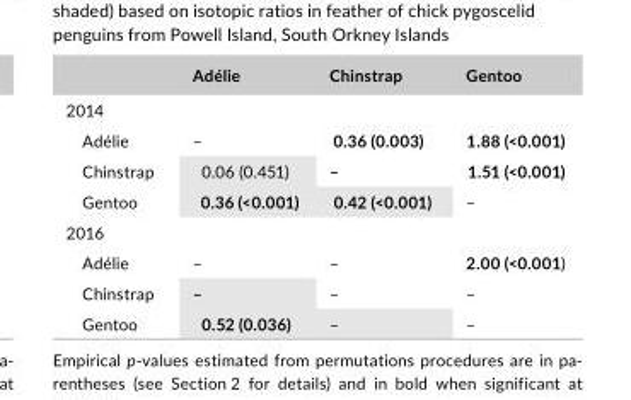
<table><thead><tr><td></td><td>Adélie</td><td>Chinstrap</td><td>Gentoo</td></tr></thead><tbody><tr><td colspan="4">2014</td></tr><tr><td>Adélie</td><td>–</td><td>0.36 (0.003)</td><td>1.88 (&lt;0.001)</td></tr><tr><td>Chinstrap</td><td>0.06 (0.451)</td><td>–</td><td>1.51 (&lt;0.001)</td></tr><tr><td>Gentoo</td><td>0.36 (&lt;0.001)</td><td>0.42 (&lt;0.001)</td><td>–</td></tr><tr><td colspan="4">2016</td></tr><tr><td>Adélie</td><td>–</td><td>–</td><td>2.00 (&lt;0.001)</td></tr><tr><td>Chinstrap</td><td>–</td><td>–</td><td>–</td></tr><tr><td>Gentoo</td><td>0.52 (0.036)</td><td>–</td><td>–</td></tr></tbody></table>